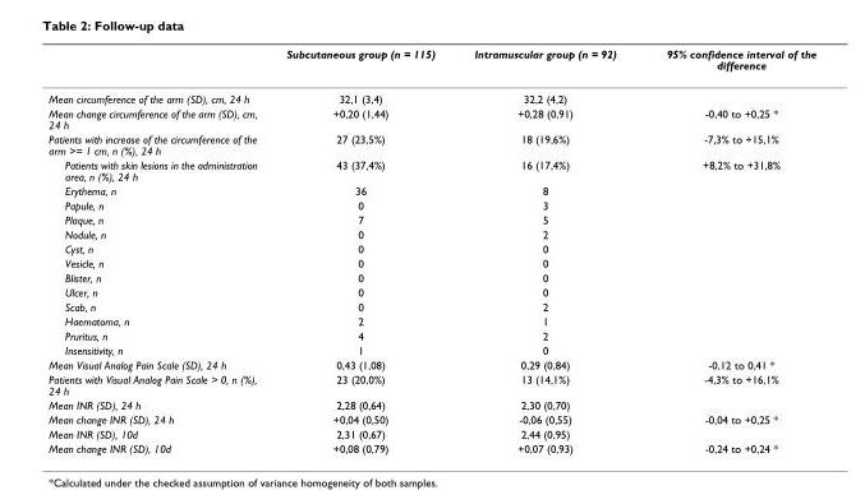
<table><thead><tr><td></td><td>Subcutaneous group (n = 115)</td><td>Intramuscular group (n = 92)</td><td>95% confidence interval of the difference</td></tr></thead><tbody><tr><td>Mean circumference of the arm (SD), cm, 24 h</td><td>32,1 (3,4)</td><td>32,2 (4,2)</td><td></td></tr><tr><td>Mean change circumference of the arm (SD), cm, 24 h</td><td>+0,20 (1,44)</td><td>+0,28 (0,91)</td><td>-0,40 to +0,25 *</td></tr><tr><td>Patients with increase of the circumference of the arm &gt;= 1 cm, n (%), 24 h</td><td>27 (23,5%)</td><td>18 (19,6%)</td><td>-7,3% to +15,1%</td></tr><tr><td>Patients with skin lesions in the administration area, n (%), 24 h</td><td>43 (37,4%)</td><td>16 (17,4%)</td><td>+8,2% to +31,8%</td></tr><tr><td>Erythema, n</td><td>36</td><td>8</td><td></td></tr><tr><td>Papule, n</td><td>0</td><td>3</td><td></td></tr><tr><td>Plaque, n</td><td>7</td><td>5</td><td></td></tr><tr><td>Nodule, n</td><td>0</td><td>2</td><td></td></tr><tr><td>Cyst, n</td><td>0</td><td>0</td><td></td></tr><tr><td>Vesicle, n</td><td>0</td><td>0</td><td></td></tr><tr><td>Blister, n</td><td>0</td><td>0</td><td></td></tr><tr><td>Ulcer, n</td><td>0</td><td>0</td><td></td></tr><tr><td>Scab, n</td><td>0</td><td>2</td><td></td></tr><tr><td>Haematoma, n</td><td>2</td><td>1</td><td></td></tr><tr><td>Pruritus, n</td><td>4</td><td>2</td><td></td></tr><tr><td>Insensitivity, n</td><td>1</td><td>0</td><td></td></tr><tr><td>Mean Visual Analog Pain Scale (SD), 24 h</td><td>0,43 (1,08)</td><td>0,29 (0,84)</td><td>-0,12 to 0,41 *</td></tr><tr><td>Patients with Visual Analog Pain Scale &gt; 0, n (%), 24 h</td><td>23 (20,0%)</td><td>13 (14,1%)</td><td>-4,3% to +16,1%</td></tr><tr><td>Mean INR (SD), 24 h</td><td>2,28 (0,64)</td><td>2,30 (0,70)</td><td></td></tr><tr><td>Mean change INR (SD), 24 h</td><td>+0,04 (0,50)</td><td>-0,06 (0,55)</td><td>-0,04 to +0,25 *</td></tr><tr><td>Mean INR (SD), 10d</td><td>2,31 (0,67)</td><td>2,44 (0,95)</td><td></td></tr><tr><td>Mean change INR (SD), 10d</td><td>+0,08 (0,79)</td><td>+0,07 (0,93)</td><td>-0,24 to +0,24 *</td></tr></tbody></table>